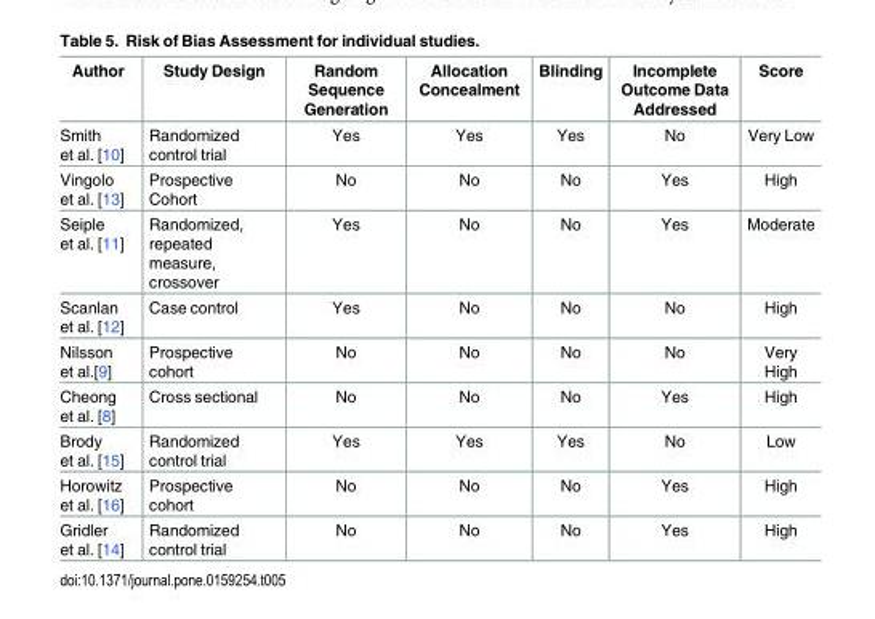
<table><thead><tr><td>Author</td><td>Study Design</td><td>Random Sequence Generation</td><td>Allocation Concealment</td><td>Blinding</td><td>Incomplete Outcome Data Addressed</td><td>Score</td></tr></thead><tbody><tr><td>Smith et al. [10]</td><td>Randomized control trial</td><td>Yes</td><td>Yes</td><td>Yes</td><td>No</td><td>Very Low</td></tr><tr><td>Vingolo et al. [13]</td><td>Prospective Cohort</td><td>No</td><td>No</td><td>No</td><td>Yes</td><td>High</td></tr><tr><td>Seiple et al. [11]</td><td>Randomized, repeated measure, crossover</td><td>Yes</td><td>No</td><td>No</td><td>Yes</td><td>Moderate</td></tr><tr><td>Scanlan et al. [12]</td><td>Case control</td><td>Yes</td><td>No</td><td>No</td><td>No</td><td>High</td></tr><tr><td>Nilsson et al.[9]</td><td>Prospective cohort</td><td>No</td><td>No</td><td>No</td><td>No</td><td>Very High</td></tr><tr><td>Cheong et al. [8]</td><td>Cross sectional</td><td>No</td><td>No</td><td>No</td><td>Yes</td><td>High</td></tr><tr><td>Brody et al. [15]</td><td>Randomized control trial</td><td>Yes</td><td>Yes</td><td>Yes</td><td>No</td><td>Low</td></tr><tr><td>Horowitz et al. [16]</td><td>Prospective cohort</td><td>No</td><td>No</td><td>No</td><td>Yes</td><td>High</td></tr><tr><td>Gridler et al. [14]</td><td>Randomized control trial</td><td>No</td><td>No</td><td>No</td><td>Yes</td><td>High</td></tr></tbody></table>